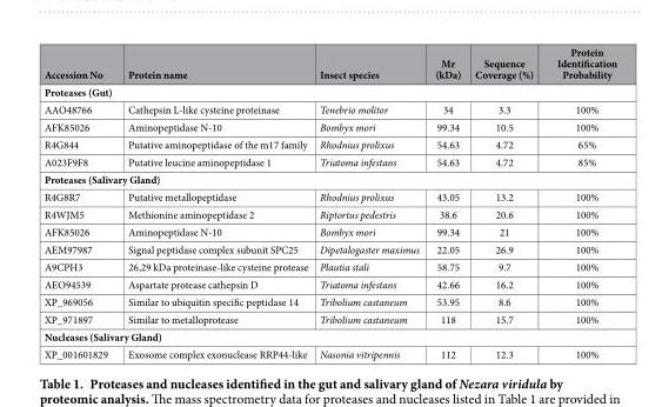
<table><thead><tr><td>Accession No</td><td>Protein name</td><td>Insect species</td><td>Mr (kDa)</td><td>Sequence Coverage (%)</td><td>Protein Identification Probability</td></tr></thead><tbody><tr><td colspan="6">Proteases (Gut)</td></tr><tr><td>AAO48766</td><td>Cathepsin L-like cysteine proteinase</td><td>Tenebrio molitor</td><td>34</td><td>3.3</td><td>100%</td></tr><tr><td>AFK85026</td><td>Aminopeptidase N-10</td><td>Bombyx mori</td><td>99.34</td><td>10.5</td><td>100%</td></tr><tr><td>R4G844</td><td>Putative aminopeptidase of the m17 family</td><td>Rhodnius prolixus</td><td>54.63</td><td>4.72</td><td>65%</td></tr><tr><td>A023F9F8</td><td>Putative leucine aminopeptidase 1</td><td>Triatoma infestans</td><td>54.63</td><td>4.72</td><td>85%</td></tr><tr><td colspan="6">Proteases (Salivary Gland)</td></tr><tr><td>R4G8R7</td><td>Putative metallopeptidase</td><td>Rhodnius prolixus</td><td>43.05</td><td>13.2</td><td>100%</td></tr><tr><td>R4WJM5</td><td>Methionine aminopeptidase 2</td><td>Riptortus pedestris</td><td>38.6</td><td>20.6</td><td>100%</td></tr><tr><td>AFK85026</td><td>Aminopeptidase N-10</td><td>Bombyx mori</td><td>99.34</td><td>21</td><td>100%</td></tr><tr><td>AEM97987</td><td>Signal peptidase complex subunit SPC25</td><td>Dipetalogaster maximus</td><td>22.05</td><td>26.9</td><td>100%</td></tr><tr><td>A9CPH3</td><td>26,29 kDa proteinase-like cysteine protease</td><td>Plautia stali</td><td>58.75</td><td>9.7</td><td>100%</td></tr><tr><td>AEO94539</td><td>Aspartate protease cathepsin D</td><td>Triatoma infestans</td><td>42.66</td><td>16.2</td><td>100%</td></tr><tr><td>XP_969056</td><td>Similar to ubiquitin specific peptidase 14</td><td>Tribolium castaneum</td><td>53.95</td><td>8.6</td><td>100%</td></tr><tr><td>XP_971897</td><td>Similar to metalloprotease</td><td>Tribolium castaneum</td><td>118</td><td>15.7</td><td>100%</td></tr><tr><td colspan="6">Nucleases (Salivary Gland)</td></tr><tr><td>XP_001601829</td><td>Exosome complex exonuclease RRP44-like</td><td>Nasonia vitripennis</td><td>112</td><td>12.3</td><td>100%</td></tr></tbody></table>